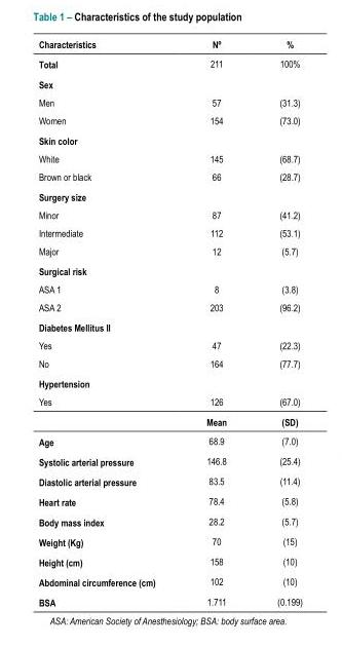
<table><thead><tr><td>Characteristics</td><td>Nº</td><td>%</td></tr></thead><tbody><tr><td>Total</td><td>211</td><td>100%</td></tr><tr><td colspan="3">Sex</td></tr><tr><td>Men</td><td>57</td><td>(31.3)</td></tr><tr><td>Women</td><td>154</td><td>(73.0)</td></tr><tr><td colspan="3">Skin color</td></tr><tr><td>White</td><td>145</td><td>(68.7)</td></tr><tr><td>Brown or black</td><td>66</td><td>(28.7)</td></tr><tr><td colspan="3">Surgery size</td></tr><tr><td>Minor</td><td>87</td><td>(41.2)</td></tr><tr><td>Intermediate</td><td>112</td><td>(53.1)</td></tr><tr><td>Major</td><td>12</td><td>(5.7)</td></tr><tr><td colspan="3">Surgical risk</td></tr><tr><td>ASA 1</td><td>8</td><td>(3.8)</td></tr><tr><td>ASA 2</td><td>203</td><td>(96.2)</td></tr><tr><td colspan="3">Diabetes Mellitus II</td></tr><tr><td>Yes</td><td>47</td><td>(22.3)</td></tr><tr><td>No</td><td>164</td><td>(77.7)</td></tr><tr><td colspan="3">Hypertension</td></tr><tr><td rowspan="2">Yes</td><td>126</td><td>(67.0)</td></tr><tr><td>Mean</td><td>(SD)</td></tr><tr><td>Age</td><td>68.9</td><td>(7.0)</td></tr><tr><td>Systolic arterial pressure</td><td>146.8</td><td>(25.4)</td></tr><tr><td>Diastolic arterial pressure</td><td>83.5</td><td>(11.4)</td></tr><tr><td>Heart rate</td><td>78.4</td><td>(5.8)</td></tr><tr><td>Body mass index</td><td>28.2</td><td>(5.7)</td></tr><tr><td>Weight (Kg)</td><td>70</td><td>(15)</td></tr><tr><td>Height (cm)</td><td>158</td><td>(10)</td></tr><tr><td>Abdominal circumference (cm)</td><td>102</td><td>(10)</td></tr><tr><td>BSA</td><td>1.711</td><td>(0.199)</td></tr></tbody></table>